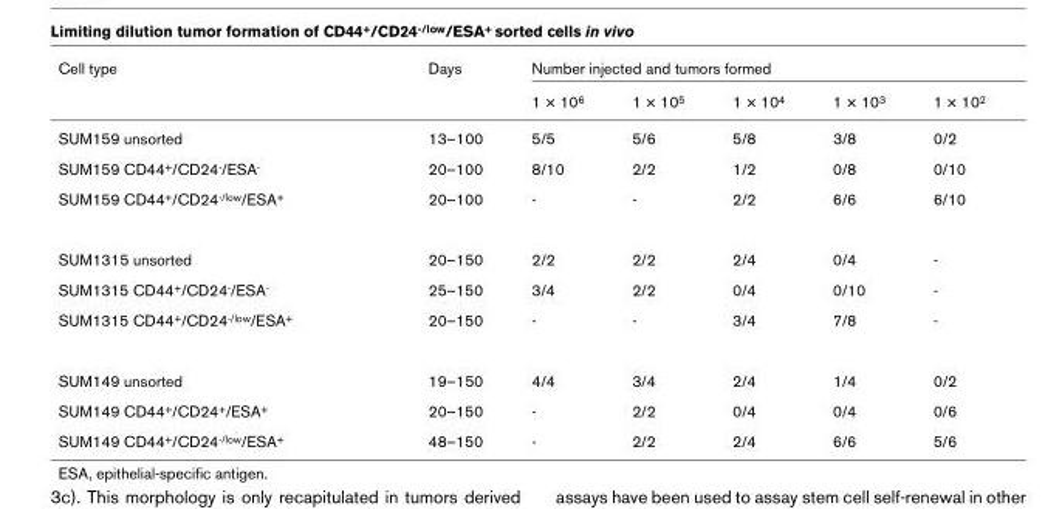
<table><thead><tr><td rowspan="2">Cell type</td><td rowspan="2">Days</td><td colspan="5">Number injected and tumors formed</td></tr><tr><td>1 × 10<sup>6</sup></td><td>1 × 10<sup>5</sup></td><td>1 × 10<sup>4</sup></td><td>1 × 10<sup>3</sup></td><td>1 × 10<sup>2</sup></td></tr></thead><tbody><tr><td>SUM159 unsorted</td><td>13–100</td><td>5/5</td><td>5/6</td><td>5/8</td><td>3/8</td><td>0/2</td></tr><tr><td>SUM159 CD44<sup>+</sup>/CD24<sup>-</sup>/ESA<sup>-</sup></td><td>20–100</td><td>8/10</td><td>2/2</td><td>1/2</td><td>0/8</td><td>0/10</td></tr><tr><td>SUM159 CD44<sup>+</sup>/CD24<sup>-/low</sup>/ESA<sup>+</sup></td><td>20–100</td><td>-</td><td>-</td><td>2/2</td><td>6/6</td><td>6/10</td></tr><tr><td>SUM1315 unsorted</td><td>20–150</td><td>2/2</td><td>2/2</td><td>2/4</td><td>0/4</td><td>-</td></tr><tr><td>SUM1315 CD44<sup>+</sup>/CD24<sup>-</sup>/ESA<sup>-</sup></td><td>25–150</td><td>3/4</td><td>2/2</td><td>0/4</td><td>0/10</td><td>-</td></tr><tr><td>SUM1315 CD44<sup>+</sup>/CD24<sup>-/low</sup>/ESA<sup>+</sup></td><td>20–150</td><td>-</td><td>-</td><td>3/4</td><td>7/8</td><td>-</td></tr><tr><td>SUM149 unsorted</td><td>19–150</td><td>4/4</td><td>3/4</td><td>2/4</td><td>1/4</td><td>0/2</td></tr><tr><td>SUM149 CD44<sup>+</sup>/CD24<sup>+</sup>/ESA<sup>+</sup></td><td>20–150</td><td>-</td><td>2/2</td><td>0/4</td><td>0/4</td><td>0/6</td></tr><tr><td>SUM149 CD44<sup>+</sup>/CD24<sup>-/low</sup>/ESA<sup>+</sup></td><td>48–150</td><td>-</td><td>2/2</td><td>2/4</td><td>6/6</td><td>5/6</td></tr></tbody></table>